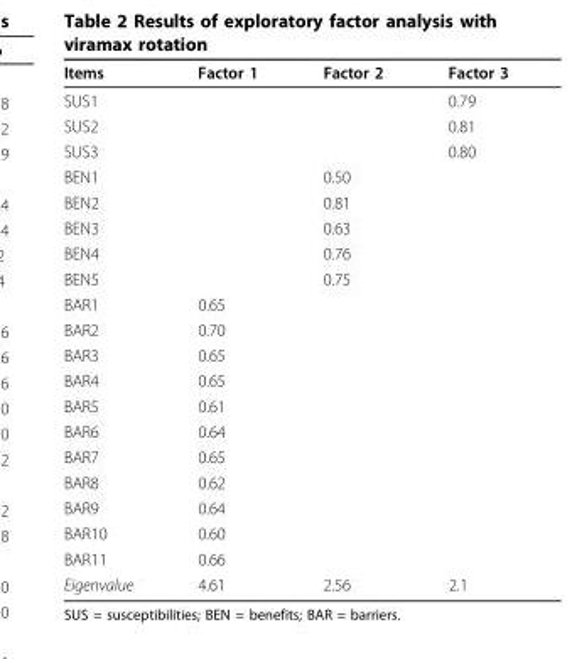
<table><thead><tr><td>Items</td><td>Factor 1</td><td>Factor 2</td><td>Factor 3</td></tr></thead><tbody><tr><td>SUS1</td><td></td><td></td><td>0.79</td></tr><tr><td>SUS2</td><td></td><td></td><td>0.81</td></tr><tr><td>SUS3</td><td></td><td></td><td>0.80</td></tr><tr><td>BEN1</td><td></td><td>0.50</td><td></td></tr><tr><td>BEN2</td><td></td><td>0.81</td><td></td></tr><tr><td>BEN3</td><td></td><td>0.63</td><td></td></tr><tr><td>BEN4</td><td></td><td>0.76</td><td></td></tr><tr><td>BEN5</td><td></td><td>0.75</td><td></td></tr><tr><td>BAR1</td><td>0.65</td><td></td><td></td></tr><tr><td>BAR2</td><td>0.70</td><td></td><td></td></tr><tr><td>BAR3</td><td>0.65</td><td></td><td></td></tr><tr><td>BAR4</td><td>0.65</td><td></td><td></td></tr><tr><td>BAR5</td><td>0.61</td><td></td><td></td></tr><tr><td>BAR6</td><td>0.64</td><td></td><td></td></tr><tr><td>BAR7</td><td>0.65</td><td></td><td></td></tr><tr><td>BAR8</td><td>0.62</td><td></td><td></td></tr><tr><td>BAR9</td><td>0.64</td><td></td><td></td></tr><tr><td>BAR10</td><td>0.60</td><td></td><td></td></tr><tr><td>BAR11</td><td>0.66</td><td></td><td></td></tr><tr><td>Eigenvalue</td><td>4.61</td><td>2.56</td><td>2.1</td></tr></tbody></table>